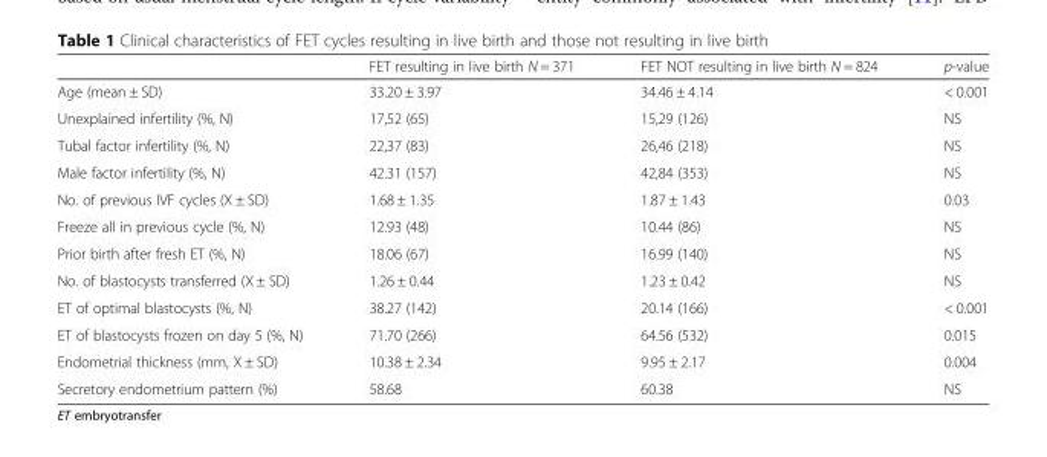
<table><thead><tr><td></td><td>FET resulting in live birth N = 371</td><td>FET NOT resulting in live birth N = 824</td><td>p-value</td></tr></thead><tbody><tr><td>Age (mean ± SD)</td><td>33.20 ± 3.97</td><td>34.46 ± 4.14</td><td>&lt; 0.001</td></tr><tr><td>Unexplained infertility (%, N)</td><td>17,52 (65)</td><td>15,29 (126)</td><td>NS</td></tr><tr><td>Tubal factor infertility (%, N)</td><td>22,37 (83)</td><td>26,46 (218)</td><td>NS</td></tr><tr><td>Male factor infertility (%, N)</td><td>42.31 (157)</td><td>42,84 (353)</td><td>NS</td></tr><tr><td>No. of previous IVF cycles (X ± SD)</td><td>1.68 ± 1.35</td><td>1.87 ± 1.43</td><td>0.03</td></tr><tr><td>Freeze all in previous cycle (%, N)</td><td>12.93 (48)</td><td>10.44 (86)</td><td>NS</td></tr><tr><td>Prior birth after fresh ET (%, N)</td><td>18.06 (67)</td><td>16.99 (140)</td><td>NS</td></tr><tr><td>No. of blastocysts transferred (X ± SD)</td><td>1.26 ± 0.44</td><td>1.23 ± 0.42</td><td>NS</td></tr><tr><td>ET of optimal blastocysts (%, N)</td><td>38.27 (142)</td><td>20.14 (166)</td><td>&lt; 0.001</td></tr><tr><td>ET of blastocysts frozen on day 5 (%, N)</td><td>71.70 (266)</td><td>64.56 (532)</td><td>0.015</td></tr><tr><td>Endometrial thickness (mm, X ± SD)</td><td>10.38 ± 2.34</td><td>9.95 ± 2.17</td><td>0.004</td></tr><tr><td>Secretory endometrium pattern (%)</td><td>58.68</td><td>60.38</td><td>NS</td></tr></tbody></table>